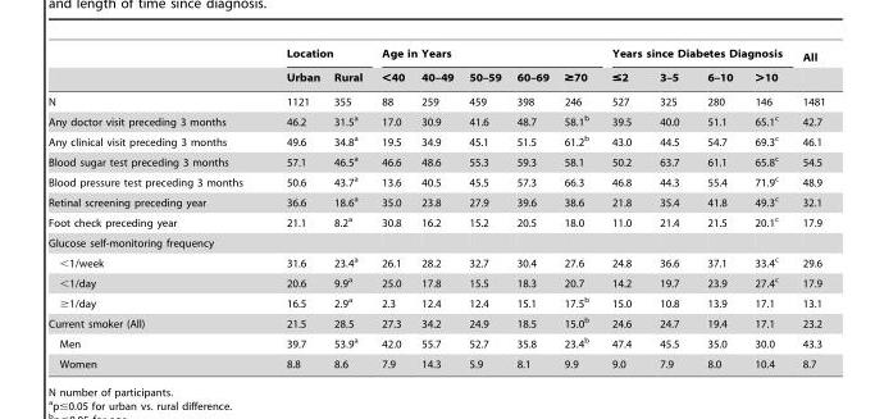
<table><thead><tr><td rowspan="2"></td><td colspan="2">Location</td><td colspan="5">Age in Years</td><td colspan="4">Years since Diabetes Diagnosis</td><td rowspan="2">All</td></tr><tr><td>Urban</td><td>Rural</td><td>&lt;40</td><td>40–49</td><td>50–59</td><td>60–69</td><td>≥70</td><td>≤2</td><td>3–5</td><td>6–10</td><td>&gt;10</td></tr></thead><tbody><tr><td>N</td><td>1121</td><td>355</td><td>88</td><td>259</td><td>459</td><td>398</td><td>246</td><td>527</td><td>325</td><td>280</td><td>146</td><td>1481</td></tr><tr><td>Any doctor visit preceding 3 months</td><td>46.2</td><td>31.5<sup>a</sup></td><td>17.0</td><td>30.9</td><td>41.6</td><td>48.7</td><td>58.1<sup>b</sup></td><td>39.5</td><td>40.0</td><td>51.1</td><td>65.1<sup>c</sup></td><td>42.7</td></tr><tr><td>Any clinical visit preceding 3 months</td><td>49.6</td><td>34.8<sup>a</sup></td><td>19.5</td><td>34.9</td><td>45.1</td><td>51.5</td><td>61.2<sup>b</sup></td><td>43.0</td><td>44.5</td><td>54.7</td><td>69.3<sup>c</sup></td><td>46.1</td></tr><tr><td>Blood sugar test preceding 3 months</td><td>57.1</td><td>46.5<sup>a</sup></td><td>46.6</td><td>48.6</td><td>55.3</td><td>59.3</td><td>58.1</td><td>50.2</td><td>63.7</td><td>61.1</td><td>65.8<sup>c</sup></td><td>54.5</td></tr><tr><td>Blood pressure test preceding 3 months</td><td>50.6</td><td>43.7<sup>a</sup></td><td>13.6</td><td>40.5</td><td>45.5</td><td>57.3</td><td>66.3</td><td>46.8</td><td>44.3</td><td>55.4</td><td>71.9<sup>c</sup></td><td>48.9</td></tr><tr><td>Retinal screening preceding year</td><td>36.6</td><td>18.6<sup>a</sup></td><td>35.0</td><td>23.8</td><td>27.9</td><td>39.6</td><td>38.6</td><td>21.8</td><td>35.4</td><td>41.8</td><td>49.3<sup>c</sup></td><td>32.1</td></tr><tr><td>Foot check preceding year</td><td>21.1</td><td>8.2<sup>a</sup></td><td>30.8</td><td>16.2</td><td>15.2</td><td>20.5</td><td>18.0</td><td>11.0</td><td>21.4</td><td>21.5</td><td>20.1<sup>c</sup></td><td>17.9</td></tr><tr><td colspan="13">Glucose self-monitoring frequency</td></tr><tr><td>&lt;1/week</td><td>31.6</td><td>23.4<sup>a</sup></td><td>26.1</td><td>28.2</td><td>32.7</td><td>30.4</td><td>27.6</td><td>24.8</td><td>36.6</td><td>37.1</td><td>33.4<sup>c</sup></td><td>29.6</td></tr><tr><td>&lt;1/day</td><td>20.6</td><td>9.9<sup>a</sup></td><td>25.0</td><td>17.8</td><td>15.5</td><td>18.3</td><td>20.7</td><td>14.2</td><td>19.7</td><td>23.9</td><td>27.4<sup>c</sup></td><td>17.9</td></tr><tr><td>≥1/day</td><td>16.5</td><td>2.9<sup>a</sup></td><td>2.3</td><td>12.4</td><td>12.4</td><td>15.1</td><td>17.5<sup>b</sup></td><td>15.0</td><td>10.8</td><td>13.9</td><td>17.1</td><td>13.1</td></tr><tr><td>Current smoker (All)</td><td>21.5</td><td>28.5</td><td>27.3</td><td>34.2</td><td>24.9</td><td>18.5</td><td>15.0<sup>b</sup></td><td>24.6</td><td>24.7</td><td>19.4</td><td>17.1</td><td>23.2</td></tr><tr><td>Men</td><td>39.7</td><td>53.9<sup>a</sup></td><td>42.0</td><td>55.7</td><td>52.7</td><td>35.8</td><td>23.4<sup>b</sup></td><td>47.4</td><td>45.5</td><td>35.0</td><td>30.0</td><td>43.3</td></tr><tr><td>Women</td><td>8.8</td><td>8.6</td><td>7.9</td><td>14.3</td><td>5.9</td><td>8.1</td><td>9.9</td><td>9.0</td><td>7.9</td><td>8.0</td><td>10.4</td><td>8.7</td></tr></tbody></table>